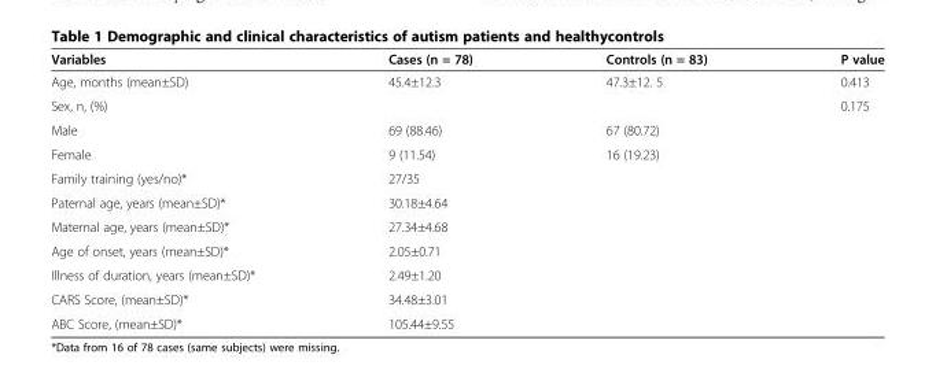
<table><thead><tr><td>Variables</td><td>Cases (n = 78)</td><td>Controls (n = 83)</td><td>P value</td></tr></thead><tbody><tr><td>Age, months (mean±SD)</td><td>45.4±12.3</td><td>47.3±12. 5</td><td>0.413</td></tr><tr><td>Sex, n, (%)</td><td></td><td></td><td>0.175</td></tr><tr><td>Male</td><td>69 (88.46)</td><td>67 (80.72)</td><td></td></tr><tr><td>Female</td><td>9 (11.54)</td><td>16 (19.23)</td><td></td></tr><tr><td>Family training (yes/no)*</td><td>27/35</td><td></td><td></td></tr><tr><td>Paternal age, years (mean±SD)*</td><td>30.18±4.64</td><td></td><td></td></tr><tr><td>Maternal age, years (mean±SD)*</td><td>27.34±4.68</td><td></td><td></td></tr><tr><td>Age of onset, years (mean±SD)*</td><td>2.05±0.71</td><td></td><td></td></tr><tr><td>Illness of duration, years (mean±SD)*</td><td>2.49±1.20</td><td></td><td></td></tr><tr><td>CARS Score, (mean±SD)*</td><td>34.48±3.01</td><td></td><td></td></tr><tr><td>ABC Score, (mean±SD)*</td><td>105.44±9.55</td><td></td><td></td></tr></tbody></table>